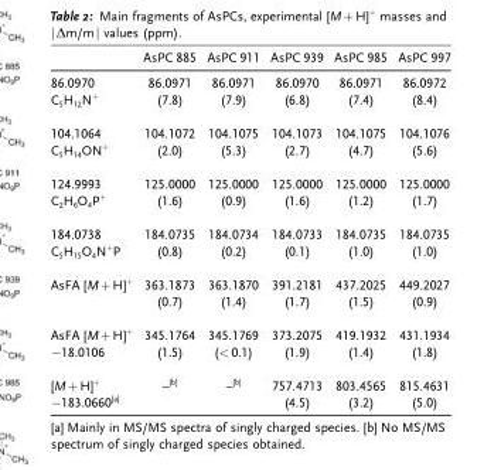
<table><thead><tr><td></td><td>AsPC 885</td><td>AsPC 911</td><td>AsPC 939</td><td>AsPC 985</td><td>AsPC 997</td></tr></thead><tbody><tr><td>86.0970 C<sub>5</sub>H<sub>12</sub>N<sup>+</sup></td><td>86.0971 (7.8)</td><td>86.0971 (7.9)</td><td>86.0970 (6.8)</td><td>86.0971 (7.4)</td><td>86.0972 (8.4)</td></tr><tr><td>104.1064 C<sub>5</sub>H<sub>14</sub>ON<sup>+</sup></td><td>104.1072 (2.0)</td><td>104.1075 (5.3)</td><td>104.1073 (2.7)</td><td>104.1075 (4.7)</td><td>104.1076 (5.6)</td></tr><tr><td>124.9993 C<sub>2</sub>H<sub>6</sub>O<sub>4</sub>P<sup>+</sup></td><td>125.0000 (1.6)</td><td>125.0000 (0.9)</td><td>125.0000 (1.6)</td><td>125.0000 (1.2)</td><td>125.0000 (1.7)</td></tr><tr><td>184.0738 C<sub>5</sub>H<sub>15</sub>O<sub>4</sub>N<sup>+</sup>P</td><td>184.0735 (0.8)</td><td>184.0734 (0.2)</td><td>184.0733 (0.1)</td><td>184.0735 (1.0)</td><td>184.0735 (1.0)</td></tr><tr><td>AsFA [M+H]<sup>+</sup></td><td>363.1873 (0.7)</td><td>363.1870 (1.4)</td><td>391.2181 (1.7)</td><td>437.2025 (1.5)</td><td>449.2027 (0.9)</td></tr><tr><td>AsFA [M+H]<sup>+</sup> −18.0106</td><td>345.1764 (1.5)</td><td>345.1769 (&lt;0.1)</td><td>373.2075 (1.9)</td><td>419.1932 (1.4)</td><td>431.1934 (1.8)</td></tr><tr><td>[M+H]<sup>+</sup> −183.0660<sup>[a]</sup></td><td>–<sup>[b]</sup></td><td>–<sup>[b]</sup></td><td>757.4713 (4.5)</td><td>803.4565 (3.2)</td><td>815.4631 (5.0)</td></tr></tbody></table>